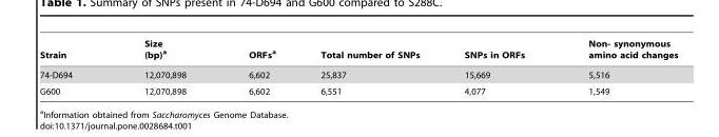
<table><thead><tr><td>Strain</td><td>Size (bp)<sup>a</sup></td><td>ORFs<sup>a</sup></td><td>Total number of SNPs</td><td>SNPs in ORFs</td><td>Non- synonymous amino acid changes</td></tr></thead><tbody><tr><td>74-D694</td><td>12,070,898</td><td>6,602</td><td>25,837</td><td>15,669</td><td>5,516</td></tr><tr><td>G600</td><td>12,070,898</td><td>6,602</td><td>6,551</td><td>4,077</td><td>1,549</td></tr></tbody></table>